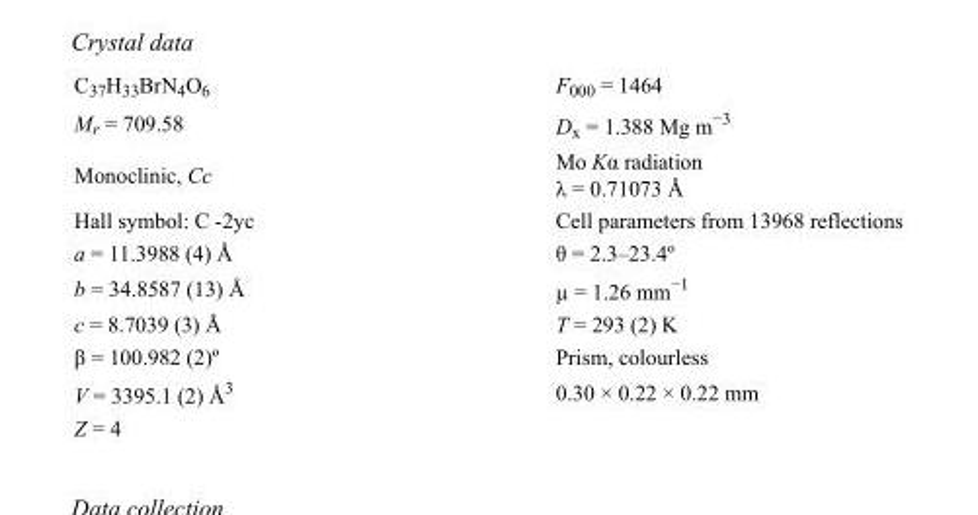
<table><tbody><tr><td>C<sub>37</sub>H<sub>33</sub>BrN<sub>4</sub>O<sub>6</sub></td><td>F<sub>000</sub> = 1464</td></tr><tr><td>M<sub>r</sub> = 709.58</td><td>D<sub>x</sub> = 1.388 Mg m<sup>−3</sup></td></tr><tr><td>Monoclinic, Cc</td><td>Mo Kα radiation λ = 0.71073 Å</td></tr><tr><td>Hall symbol: C -2yc</td><td>Cell parameters from 13968 reflections</td></tr><tr><td>a = 11.3988 (4) Å</td><td>θ = 2.3–23.4º</td></tr><tr><td>b = 34.8587 (13) Å</td><td>µ = 1.26 mm<sup>−1</sup></td></tr><tr><td>c = 8.7039 (3) Å</td><td>T = 293 (2) K</td></tr><tr><td>β = 100.982 (2)º</td><td>Prism, colourless</td></tr><tr><td>V = 3395.1 (2) Å<sup>3</sup></td><td>0.30 × 0.22 × 0.22 mm</td></tr><tr><td>Z = 4</td><td></td></tr></tbody></table>